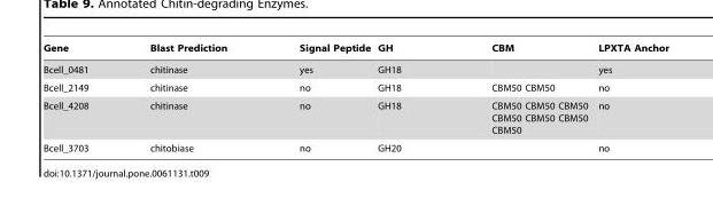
<table><thead><tr><td>Gene</td><td>Blast Prediction</td><td>Signal Peptide</td><td>GH</td><td>CBM</td><td>LPXTA Anchor</td></tr></thead><tbody><tr><td>Bcell_0481</td><td>chitinase</td><td>yes</td><td>GH18</td><td></td><td>yes</td></tr><tr><td>Bcell_2149</td><td>chitinase</td><td>no</td><td>GH18</td><td>CBM50 CBM50</td><td>no</td></tr><tr><td>Bcell_4208</td><td>chitinase</td><td>no</td><td>GH18</td><td>CBM50 CBM50 CBM50 CBM50 CBM50 CBM50 CBM50</td><td>no</td></tr><tr><td>Bcell_3703</td><td>chitobiase</td><td>no</td><td>GH20</td><td></td><td>no</td></tr></tbody></table>